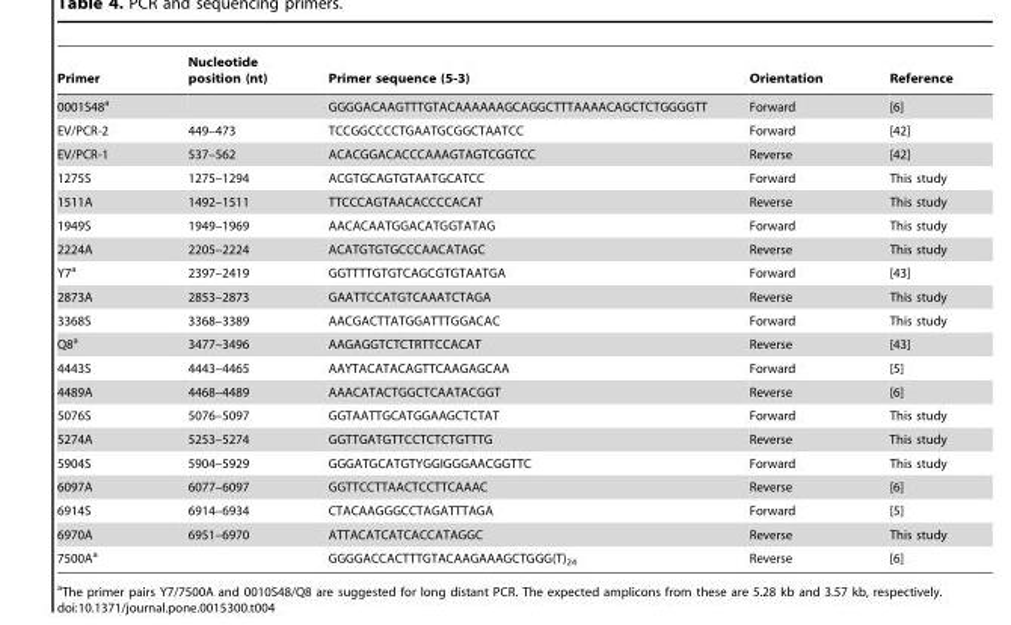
<table><thead><tr><td>Primer</td><td>Nucleotide position (nt)</td><td>Primer sequence (5-3)</td><td>Orientation</td><td>Reference</td></tr></thead><tbody><tr><td>0001S48<sup>a</sup></td><td></td><td>GGGGACAAGTTTGTACAAAAAAGCAGGCTTTAAAACAGCTCTGGGGTT</td><td>Forward</td><td>[6]</td></tr><tr><td>EV/PCR-2</td><td>449–473</td><td>TCCGGCCCCTGAATGCGGCTAATCC</td><td>Forward</td><td>[42]</td></tr><tr><td>EV/PCR-1</td><td>537–562</td><td>ACACGGACACCCAAAGTAGTCGGTCC</td><td>Reverse</td><td>[42]</td></tr><tr><td>1275S</td><td>1275–1294</td><td>ACGTGCAGTGTAATGCATCC</td><td>Forward</td><td>This study</td></tr><tr><td>1511A</td><td>1492–1511</td><td>TTCCCAGTAACACCCCACAT</td><td>Reverse</td><td>This study</td></tr><tr><td>1949S</td><td>1949–1969</td><td>AACACAATGGACATGGTATAG</td><td>Forward</td><td>This study</td></tr><tr><td>2224A</td><td>2205–2224</td><td>ACATGTGTGCCCAACATAGC</td><td>Reverse</td><td>This study</td></tr><tr><td>Y7<sup>a</sup></td><td>2397–2419</td><td>GGTTTTGTGTCAGCGTGTAATGA</td><td>Forward</td><td>[43]</td></tr><tr><td>2873A</td><td>2853–2873</td><td>GAATTCCATGTCAAATCTAGA</td><td>Reverse</td><td>This study</td></tr><tr><td>3368S</td><td>3368–3389</td><td>AACGACTTATGGATTTGGACAC</td><td>Forward</td><td>This study</td></tr><tr><td>Q8<sup>a</sup></td><td>3477–3496</td><td>AAGAGGTCTCTRTTCCACAT</td><td>Reverse</td><td>[43]</td></tr><tr><td>4443S</td><td>4443–4465</td><td>AAYTACATACAGTTCAAGAGCAA</td><td>Forward</td><td>[5]</td></tr><tr><td>4489A</td><td>4468–4489</td><td>AAACATACTGGCTCAATACGGT</td><td>Reverse</td><td>[6]</td></tr><tr><td>5076S</td><td>5076–5097</td><td>GGTAATTGCATGGAAGCTCTAT</td><td>Forward</td><td>This study</td></tr><tr><td>5274A</td><td>5253–5274</td><td>GGTTGATGTTCCTCTCTGTTTG</td><td>Reverse</td><td>This study</td></tr><tr><td>5904S</td><td>5904–5929</td><td>GGGATGCATGTYGGIGGGAACGGTTC</td><td>Forward</td><td>This study</td></tr><tr><td>6097A</td><td>6077–6097</td><td>GGTTCCTTAACTCCTTCAAAC</td><td>Reverse</td><td>[6]</td></tr><tr><td>6914S</td><td>6914–6934</td><td>CTACAAGGGCCTAGATTTAGA</td><td>Forward</td><td>[5]</td></tr><tr><td>6970A</td><td>6951–6970</td><td>ATTACATCATCACCATAGGC</td><td>Reverse</td><td>This study</td></tr><tr><td>7500A<sup>a</sup></td><td></td><td>GGGGACCACTTTGTACAAGAAAGCTGGG(T)<sub>24</sub></td><td>Reverse</td><td>[6]</td></tr></tbody></table>